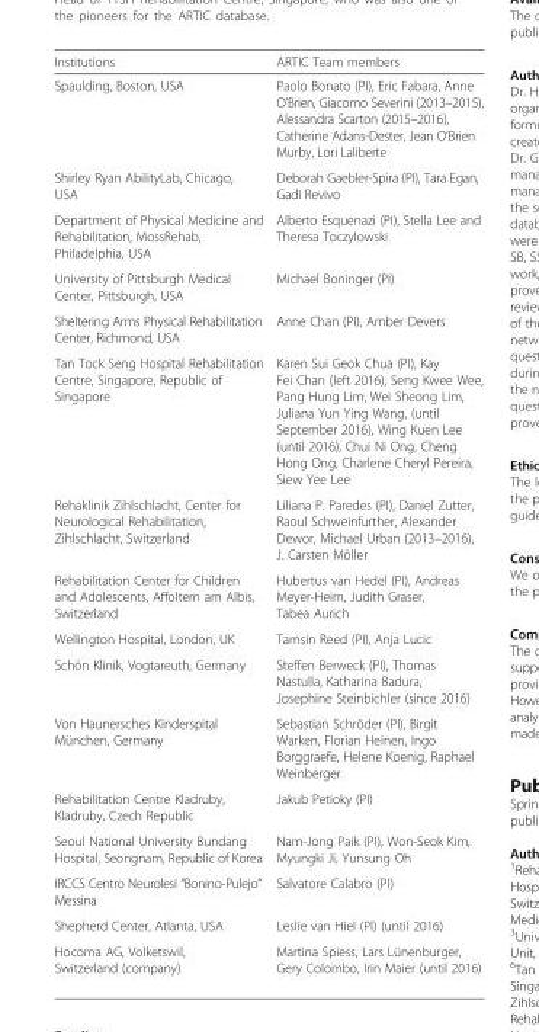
<table><thead><tr><td>Institutions</td><td>ARTIC Team members</td></tr></thead><tbody><tr><td>Spaulding, Boston, USA</td><td>Paolo Bonato (PI), Eric Fabara, Anne O’Brien, Giacomo Severini (2013–2015), Alessandra Scarton (2015–2016), Catherine Adans-Dester, Jean O’Brien Murby, Lori Laliberte</td></tr><tr><td>Shirley Ryan AbilityLab, Chicago, USA</td><td>Deborah Gaebler-Spira (PI), Tara Egan, Gadi Revivo</td></tr><tr><td>Department of Physical Medicine and Rehabilitation, MossRehab, Philadelphia, USA</td><td>Alberto Esquenazi (PI), Stella Lee and Theresa Toczylowski</td></tr><tr><td>University of Pittsburgh Medical Center, Pittsburgh, USA</td><td>Michael Boninger (PI)</td></tr><tr><td>Sheltering Arms Physical Rehabilitation Center, Richmond, USA</td><td>Anne Chan (PI), Amber Devers</td></tr><tr><td>Tan Tock Seng Hospital Rehabilitation Centre, Singapore, Republic of Singapore</td><td>Karen Sui Geok Chua (PI), Kay Fei Chan (left 2016), Seng Kwee Wee, Pang Hung Lim, Wei Sheong Lim, Juliana Yun Ying Wang, (until September 2016), Wing Kuen Lee (until 2016), Chui Ni Ong, Cheng Hong Ong, Charlene Cheryl Pereira, Siew Yee Lee</td></tr><tr><td>Rehaklinik Zihlschlacht, Center for Neurological Rehabilitation, Zihlschlacht, Switzerland</td><td>Liliana P. Paredes (PI), Daniel Zutter, Raoul Schweinfurther, Alexander Dewor, Michael Urban (2013–2016), J. Carsten Möller</td></tr><tr><td>Rehabilitation Center for Children and Adolescents, Affoltern am Albis, Switzerland</td><td>Hubertus van Hedel (PI), Andreas Meyer-Heim, Judith Graser, Tabea Aurich</td></tr><tr><td>Wellington Hospital, London, UK</td><td>Tamsin Reed (PI), Anja Lucic</td></tr><tr><td>Schön Klinik, Vogtareuth, Germany</td><td>Steffen Berweck (PI), Thomas Nastulla, Katharina Badura, Josephine Steinbichler (since 2016)</td></tr><tr><td>Von Haunersches Kinderspital München, Germany</td><td>Sebastian Schröder (PI), Birgit Warken, Florian Heinen, Ingo Borggraefe, Helene Koenig, Raphael Weinberger</td></tr><tr><td>Rehabilitation Centre Kladruby, Kladruby, Czech Republic</td><td>Jakub Petioky (PI)</td></tr><tr><td>Seoul National University Bundang Hospital, Seongnam, Republic of Korea</td><td>Nam-Jong Paik (PI), Won-Seok Kim, Myungki Ji, Yunsung Oh</td></tr><tr><td>IRCCS Centro Neurolesi “Bonino-Pulejo” Messina</td><td>Salvatore Calabro (PI)</td></tr><tr><td>Shepherd Center, Atlanta, USA</td><td>Leslie van Hiel (PI) (until 2016)</td></tr><tr><td>Hocoma AG, Volketswil, Switzerland (company)</td><td>Martina Spiess, Lars Lünenburger, Gery Colombo, Irin Maier (until 2016)</td></tr></tbody></table>